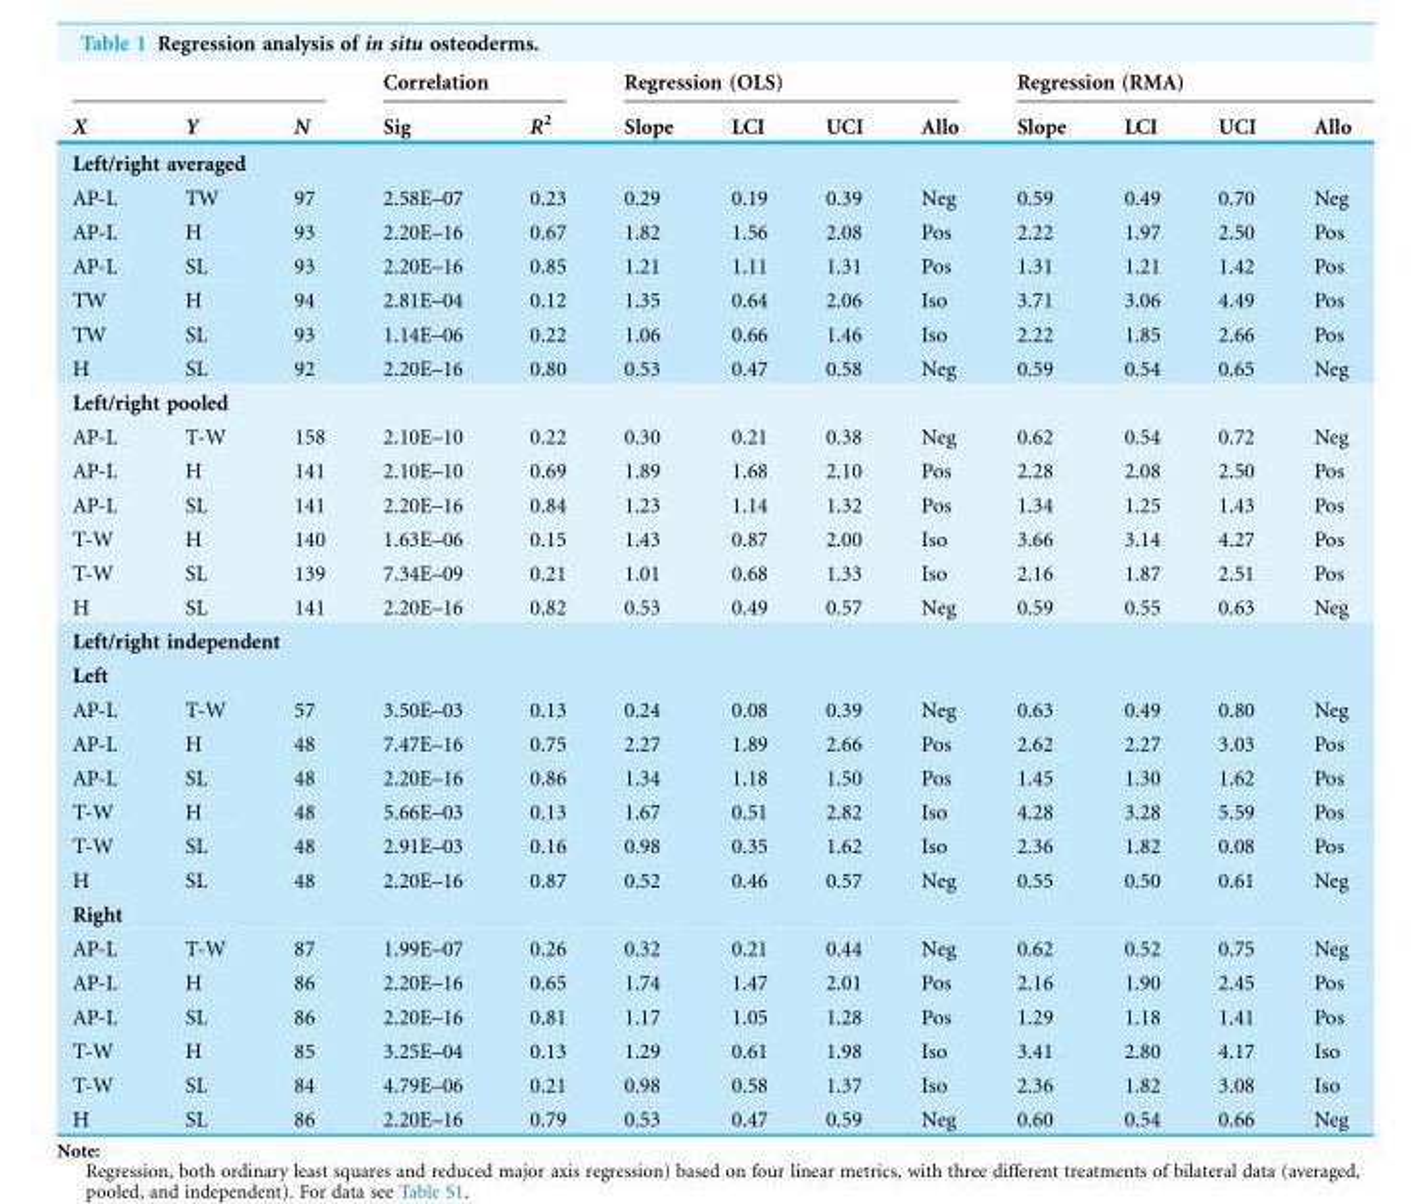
<table><thead><tr><td rowspan="2">X</td><td rowspan="2">Y</td><td rowspan="2">N</td><td colspan="2">Correlation</td><td colspan="4">Regression (OLS)</td><td colspan="4">Regression (RMA)</td></tr><tr><td>Sig</td><td>R<sup>2</sup></td><td>Slope</td><td>LCI</td><td>UCI</td><td>Allo</td><td>Slope</td><td>LCI</td><td>UCI</td><td>Allo</td></tr></thead><tbody><tr><td colspan="13">Left/right averaged</td></tr><tr><td>AP-L</td><td>TW</td><td>97</td><td>2.58E–07</td><td>0.23</td><td>0.29</td><td>0.19</td><td>0.39</td><td>Neg</td><td>0.59</td><td>0.49</td><td>0.70</td><td>Neg</td></tr><tr><td>AP-L</td><td>H</td><td>93</td><td>2.20E–16</td><td>0.67</td><td>1.82</td><td>1.56</td><td>2.08</td><td>Pos</td><td>2.22</td><td>1.97</td><td>2.50</td><td>Pos</td></tr><tr><td>AP-L</td><td>SL</td><td>93</td><td>2.20E–16</td><td>0.85</td><td>1.21</td><td>1.11</td><td>1.31</td><td>Pos</td><td>1.31</td><td>1.21</td><td>1.42</td><td>Pos</td></tr><tr><td>TW</td><td>H</td><td>94</td><td>2.81E–04</td><td>0.12</td><td>1.35</td><td>0.64</td><td>2.06</td><td>Iso</td><td>3.71</td><td>3.06</td><td>4.49</td><td>Pos</td></tr><tr><td>TW</td><td>SL</td><td>93</td><td>1.14E–06</td><td>0.22</td><td>1.06</td><td>0.66</td><td>1.46</td><td>Iso</td><td>2.22</td><td>1.85</td><td>2.66</td><td>Pos</td></tr><tr><td>H</td><td>SL</td><td>92</td><td>2.20E–16</td><td>0.80</td><td>0.53</td><td>0.47</td><td>0.58</td><td>Neg</td><td>0.59</td><td>0.54</td><td>0.65</td><td>Neg</td></tr><tr><td colspan="13">Left/right pooled</td></tr><tr><td>AP-L</td><td>T-W</td><td>158</td><td>2.10E–10</td><td>0.22</td><td>0.30</td><td>0.21</td><td>0.38</td><td>Neg</td><td>0.62</td><td>0.54</td><td>0.72</td><td>Neg</td></tr><tr><td>AP-L</td><td>H</td><td>141</td><td>2.10E–10</td><td>0.69</td><td>1.89</td><td>1.68</td><td>2.10</td><td>Pos</td><td>2.28</td><td>2.08</td><td>2.50</td><td>Pos</td></tr><tr><td>AP-L</td><td>SL</td><td>141</td><td>2.20E–16</td><td>0.84</td><td>1.23</td><td>1.14</td><td>1.32</td><td>Pos</td><td>1.34</td><td>1.25</td><td>1.43</td><td>Pos</td></tr><tr><td>T-W</td><td>H</td><td>140</td><td>1.63E–06</td><td>0.15</td><td>1.43</td><td>0.87</td><td>2.00</td><td>Iso</td><td>3.66</td><td>3.14</td><td>4.27</td><td>Pos</td></tr><tr><td>T-W</td><td>SL</td><td>139</td><td>7.34E–09</td><td>0.21</td><td>1.01</td><td>0.68</td><td>1.33</td><td>Iso</td><td>2.16</td><td>1.87</td><td>2.51</td><td>Pos</td></tr><tr><td>H</td><td>SL</td><td>141</td><td>2.20E–16</td><td>0.82</td><td>0.53</td><td>0.49</td><td>0.57</td><td>Neg</td><td>0.59</td><td>0.55</td><td>0.63</td><td>Neg</td></tr><tr><td colspan="13">Left/right independent</td></tr><tr><td colspan="13">Left</td></tr><tr><td>AP-L</td><td>T-W</td><td>57</td><td>3.50E–03</td><td>0.13</td><td>0.24</td><td>0.08</td><td>0.39</td><td>Neg</td><td>0.63</td><td>0.49</td><td>0.80</td><td>Neg</td></tr><tr><td>AP-L</td><td>H</td><td>48</td><td>7.47E–16</td><td>0.75</td><td>2.27</td><td>1.89</td><td>2.66</td><td>Pos</td><td>2.62</td><td>2.27</td><td>3.03</td><td>Pos</td></tr><tr><td>AP-L</td><td>SL</td><td>48</td><td>2.20E–16</td><td>0.86</td><td>1.34</td><td>1.18</td><td>1.50</td><td>Pos</td><td>1.45</td><td>1.30</td><td>1.62</td><td>Pos</td></tr><tr><td>T-W</td><td>H</td><td>48</td><td>5.66E–03</td><td>0.13</td><td>1.67</td><td>0.51</td><td>2.82</td><td>Iso</td><td>4.28</td><td>3.28</td><td>5.59</td><td>Pos</td></tr><tr><td>T-W</td><td>SL</td><td>48</td><td>2.91E–03</td><td>0.16</td><td>0.98</td><td>0.35</td><td>1.62</td><td>Iso</td><td>2.36</td><td>1.82</td><td>0.08</td><td>Pos</td></tr><tr><td>H</td><td>SL</td><td>48</td><td>2.20E–16</td><td>0.87</td><td>0.52</td><td>0.46</td><td>0.57</td><td>Neg</td><td>0.55</td><td>0.50</td><td>0.61</td><td>Neg</td></tr><tr><td colspan="13">Right</td></tr><tr><td>AP-L</td><td>T-W</td><td>87</td><td>1.99E–07</td><td>0.26</td><td>0.32</td><td>0.21</td><td>0.44</td><td>Neg</td><td>0.62</td><td>0.52</td><td>0.75</td><td>Neg</td></tr><tr><td>AP-L</td><td>H</td><td>86</td><td>2.20E–16</td><td>0.65</td><td>1.74</td><td>1.47</td><td>2.01</td><td>Pos</td><td>2.16</td><td>1.90</td><td>2.45</td><td>Pos</td></tr><tr><td>AP-L</td><td>SL</td><td>86</td><td>2.20E–16</td><td>0.81</td><td>1.17</td><td>1.05</td><td>1.28</td><td>Pos</td><td>1.29</td><td>1.18</td><td>1.41</td><td>Pos</td></tr><tr><td>T-W</td><td>H</td><td>85</td><td>3.25E–04</td><td>0.13</td><td>1.29</td><td>0.61</td><td>1.98</td><td>Iso</td><td>3.41</td><td>2.80</td><td>4.17</td><td>Iso</td></tr><tr><td>T-W</td><td>SL</td><td>84</td><td>4.79E–06</td><td>0.21</td><td>0.98</td><td>0.58</td><td>1.37</td><td>Iso</td><td>2.36</td><td>1.82</td><td>3.08</td><td>Iso</td></tr><tr><td>H</td><td>SL</td><td>86</td><td>2.20E–16</td><td>0.79</td><td>0.53</td><td>0.47</td><td>0.59</td><td>Neg</td><td>0.60</td><td>0.54</td><td>0.66</td><td>Neg</td></tr></tbody></table>